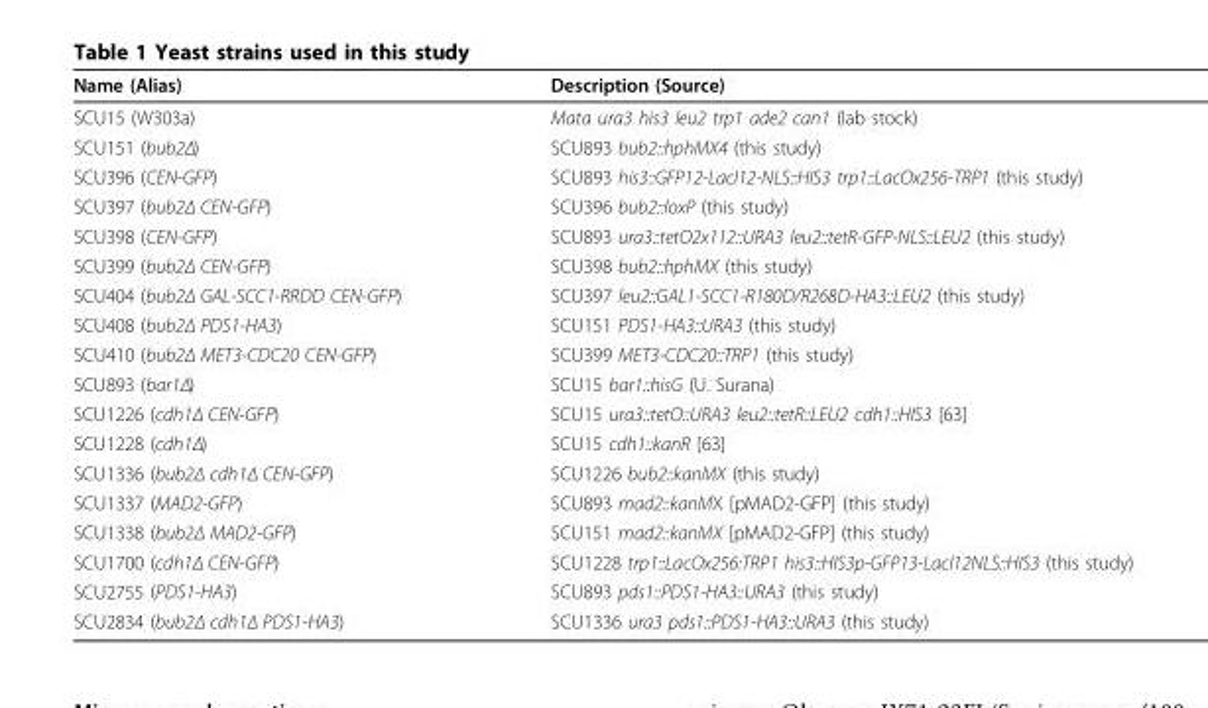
<table><thead><tr><td>Name (Alias)</td><td>Description (Source)</td></tr></thead><tbody><tr><td>SCU15 (W303a)</td><td>Mata ura3 his3 leu2 trp1 ade2 can1 (lab stock)</td></tr><tr><td>SCU151 (bub2Δ)</td><td>SCU893 bub2::hphMX4 (this study)</td></tr><tr><td>SCU396 (CEN-GFP)</td><td>SCU893 his3::GFP12-LacI12-NLS::HIS3 trp1::LacOx256-TRP1 (this study)</td></tr><tr><td>SCU397 (bub2Δ CEN-GFP)</td><td>SCU396 bub2::loxP (this study)</td></tr><tr><td>SCU398 (CEN-GFP)</td><td>SCU893 ura3::tetO2x112::URA3 leu2::tetR-GFP-NLS::LEU2 (this study)</td></tr><tr><td>SCU399 (bub2Δ CEN-GFP)</td><td>SCU398 bub2::hphMX (this study)</td></tr><tr><td>SCU404 (bub2Δ GAL-SCC1-RRDD CEN-GFP)</td><td>SCU397 leu2::GAL1-SCC1-R180D/R268D-HA3::LEU2 (this study)</td></tr><tr><td>SCU408 (bub2Δ PDS1-HA3)</td><td>SCU151 PDS1-HA3::URA3 (this study)</td></tr><tr><td>SCU410 (bub2Δ MET3-CDC20 CEN-GFP)</td><td>SCU399 MET3-CDC20::TRP1 (this study)</td></tr><tr><td>SCU893 (bar1Δ)</td><td>SCU15 bar1::hisG (U. Surana)</td></tr><tr><td>SCU1226 (cdh1Δ CEN-GFP)</td><td>SCU15 ura3::tetO::URA3 leu2::tetR::LEU2 cdh1::HIS3 [63]</td></tr><tr><td>SCU1228 (cdh1Δ)</td><td>SCU15 cdh1::kanR [63]</td></tr><tr><td>SCU1336 (bub2Δ cdh1Δ CEN-GFP)</td><td>SCU1226 bub2::kanMX (this study)</td></tr><tr><td>SCU1337 (MAD2-GFP)</td><td>SCU893 mad2::kanMX [pMAD2-GFP] (this study)</td></tr><tr><td>SCU1338 (bub2Δ MAD2-GFP)</td><td>SCU151 mad2::kanMX [pMAD2-GFP] (this study)</td></tr><tr><td>SCU1700 (cdh1Δ CEN-GFP)</td><td>SCU1228 trp1::LacOx256:TRP1 his3::HIS3p-GFP13-LacI12NLS::HIS3 (this study)</td></tr><tr><td>SCU2755 (PDS1-HA3)</td><td>SCU893 pds1::PDS1-HA3::URA3 (this study)</td></tr><tr><td>SCU2834 (bub2Δ cdh1Δ PDS1-HA3)</td><td>SCU1336 ura3 pds1::PDS1-HA3::URA3 (this study)</td></tr></tbody></table>